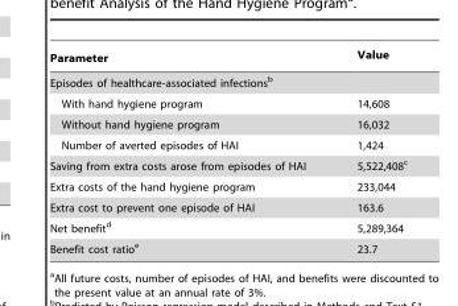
<table><thead><tr><td>Parameter</td><td>Value</td></tr></thead><tbody><tr><td colspan="2">Episodes of healthcare-associated infections<sup>b</sup></td></tr><tr><td>With hand hygiene program</td><td>14,608</td></tr><tr><td>Without hand hygiene program</td><td>16,032</td></tr><tr><td>Number of averted episodes of HAI</td><td>1,424</td></tr><tr><td>Saving from extra costs arose from episodes of HAI</td><td>5,522,408<sup>c</sup></td></tr><tr><td>Extra costs of the hand hygiene program</td><td>233,044</td></tr><tr><td>Extra cost to prevent one episode of HAI</td><td>163.6</td></tr><tr><td>Net benefit<sup>d</sup></td><td>5,289,364</td></tr><tr><td>Benefit cost ratio<sup>e</sup></td><td>23.7</td></tr></tbody></table>